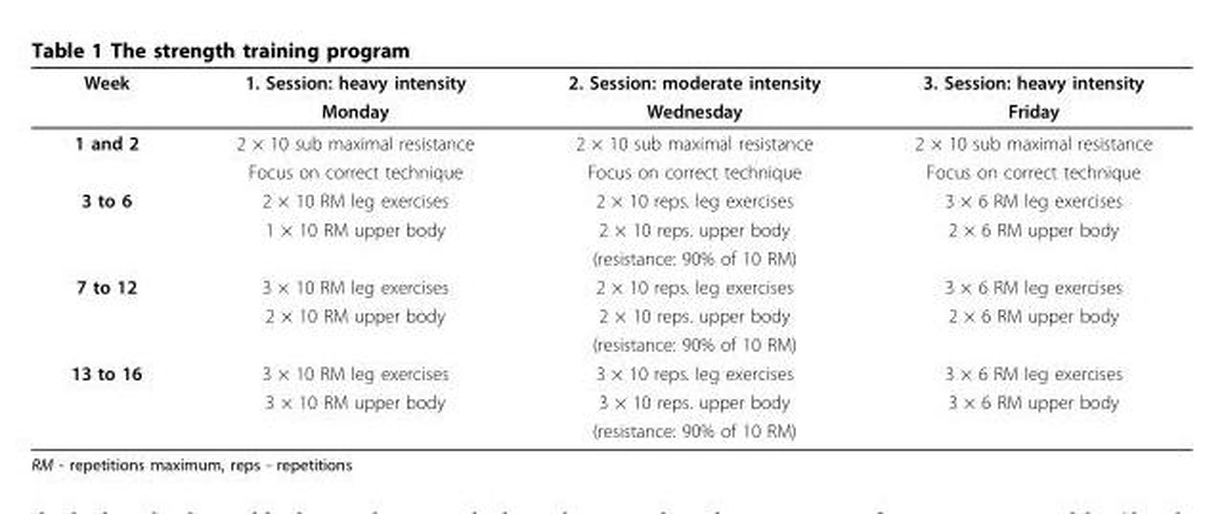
<table><thead><tr><td rowspan="2">Week</td><td rowspan="2">1. Session: heavy intensity Monday</td><td rowspan="2">2. Session: moderate intensity Wednesday</td><td rowspan="2">3. Session: heavy intensity Friday</td></tr><tr></tr></thead><tbody><tr><td rowspan="2">1 and 2</td><td>2 × 10 sub maximal resistance</td><td>2 × 10 sub maximal resistance</td><td>2 × 10 sub maximal resistance</td></tr><tr><td>Focus on correct technique</td><td>Focus on correct technique</td><td>Focus on correct technique</td></tr><tr><td rowspan="3">3 to 6</td><td>2 × 10 RM leg exercises</td><td>2 × 10 reps. leg exercises</td><td>3 × 6 RM leg exercises</td></tr><tr><td>1 × 10 RM upper body</td><td>2 × 10 reps. upper body</td><td>2 × 6 RM upper body</td></tr><tr><td></td><td>(resistance: 90% of 10 RM)</td><td></td></tr><tr><td rowspan="3">7 to 12</td><td>3 × 10 RM leg exercises</td><td>2 × 10 reps. leg exercises</td><td>3 × 6 RM leg exercises</td></tr><tr><td>2 × 10 RM upper body</td><td>2 × 10 reps. upper body</td><td>2 × 6 RM upper body</td></tr><tr><td></td><td>(resistance: 90% of 10 RM)</td><td></td></tr><tr><td rowspan="3">13 to 16</td><td>3 × 10 RM leg exercises</td><td>3 × 10 reps. leg exercises</td><td>3 × 6 RM leg exercises</td></tr><tr><td>3 × 10 RM upper body</td><td>3 × 10 reps. upper body</td><td>3 × 6 RM upper body</td></tr><tr><td></td><td>(resistance: 90% of 10 RM)</td><td></td></tr></tbody></table>